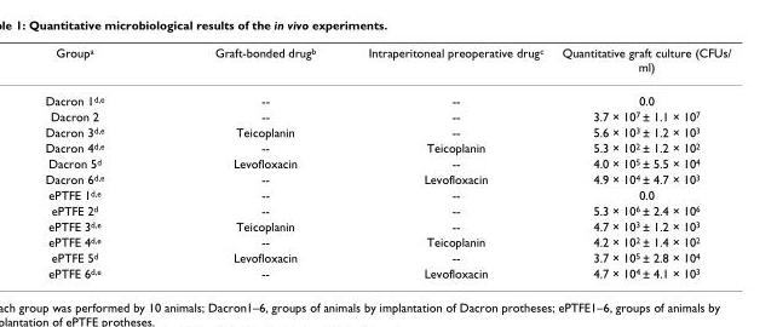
<table><thead><tr><td>Group<sup>a</sup></td><td>Graft-bonded drug<sup>b</sup></td><td>Intraperitoneal preoperative drug<sup>c</sup></td><td>Quantitative graft culture (CFUs/ ml)</td></tr></thead><tbody><tr><td>Dacron 1<sup>d,e</sup></td><td>--</td><td>--</td><td>0.0</td></tr><tr><td>Dacron 2</td><td>--</td><td>--</td><td>3.7 × 10<sup>7</sup> ± 1.1 × 10<sup>7</sup></td></tr><tr><td>Dacron 3<sup>d,e</sup></td><td>Teicoplanin</td><td>--</td><td>5.6 × 10<sup>3</sup> ± 1.2 × 10<sup>3</sup></td></tr><tr><td>Dacron 4<sup>d,e</sup></td><td>--</td><td>Teicoplanin</td><td>5.3 × 10<sup>2</sup> ± 1.2 × 10<sup>2</sup></td></tr><tr><td>Dacron 5<sup>d</sup></td><td>Levofloxacin</td><td>--</td><td>4.0 × 10<sup>5</sup> ± 5.5 × 10<sup>4</sup></td></tr><tr><td>Dacron 6<sup>d,e</sup></td><td>--</td><td>Levofloxacin</td><td>4.9 × 10<sup>4</sup> ± 4.7 × 10<sup>3</sup></td></tr><tr><td>ePTFE 1<sup>d,e</sup></td><td>--</td><td>--</td><td>0.0</td></tr><tr><td>ePTFE 2<sup>d</sup></td><td>--</td><td>--</td><td>5.3 × 10<sup>6</sup> ± 2.4 × 10<sup>6</sup></td></tr><tr><td>ePTFE 3<sup>d,e</sup></td><td>Teicoplanin</td><td>--</td><td>4.7 × 10<sup>3</sup> ± 1.2 × 10<sup>3</sup></td></tr><tr><td>ePTFE 4<sup>d,e</sup></td><td>--</td><td>Teicoplanin</td><td>4.2 × 10<sup>2</sup> ± 1.4 × 10<sup>2</sup></td></tr><tr><td>ePTFE 5<sup>d</sup></td><td>Levofloxacin</td><td>--</td><td>3.7 × 10<sup>5</sup> ± 2.8 × 10<sup>4</sup></td></tr><tr><td>ePTFE 6<sup>d,e</sup></td><td>--</td><td>Levofloxacin</td><td>4.7 × 10<sup>4</sup> ± 4.1 × 10<sup>3</sup></td></tr></tbody></table>